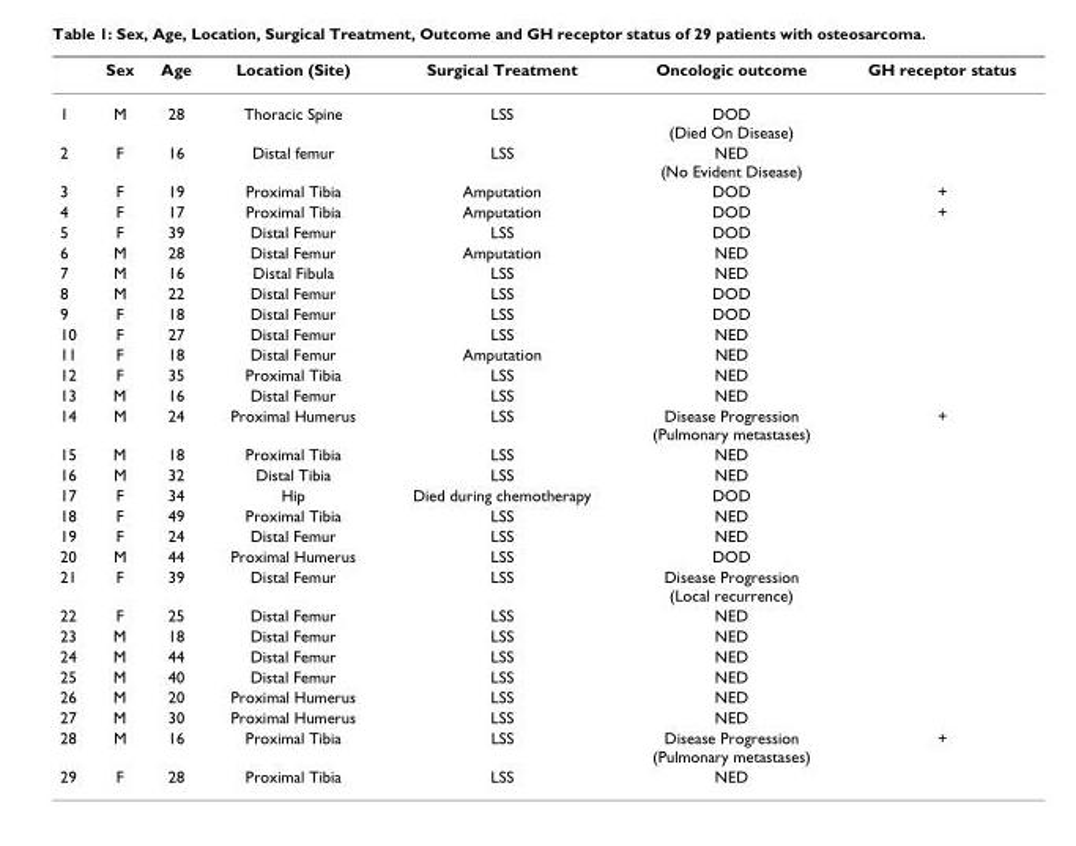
<table><thead><tr><td></td><td>Sex</td><td>Age</td><td>Location (Site)</td><td>Surgical Treatment</td><td>Oncologic outcome</td><td>GH receptor status</td></tr></thead><tbody><tr><td>1</td><td>M</td><td>28</td><td>Thoracic Spine</td><td>LSS</td><td>DOD (Died On Disease)</td><td></td></tr><tr><td>2</td><td>F</td><td>16</td><td>Distal femur</td><td>LSS</td><td>NED (No Evident Disease)</td><td></td></tr><tr><td>3</td><td>F</td><td>19</td><td>Proximal Tibia</td><td>Amputation</td><td>DOD</td><td>+</td></tr><tr><td>4</td><td>F</td><td>17</td><td>Proximal Tibia</td><td>Amputation</td><td>DOD</td><td>+</td></tr><tr><td>5</td><td>F</td><td>39</td><td>Distal Femur</td><td>LSS</td><td>DOD</td><td></td></tr><tr><td>6</td><td>M</td><td>28</td><td>Distal Femur</td><td>Amputation</td><td>NED</td><td></td></tr><tr><td>7</td><td>M</td><td>16</td><td>Distal Fibula</td><td>LSS</td><td>NED</td><td></td></tr><tr><td>8</td><td>M</td><td>22</td><td>Distal Femur</td><td>LSS</td><td>DOD</td><td></td></tr><tr><td>9</td><td>F</td><td>18</td><td>Distal Femur</td><td>LSS</td><td>DOD</td><td></td></tr><tr><td>10</td><td>F</td><td>27</td><td>Distal Femur</td><td>LSS</td><td>NED</td><td></td></tr><tr><td>11</td><td>F</td><td>18</td><td>Distal Femur</td><td>Amputation</td><td>NED</td><td></td></tr><tr><td>12</td><td>F</td><td>35</td><td>Proximal Tibia</td><td>LSS</td><td>NED</td><td></td></tr><tr><td>13</td><td>M</td><td>16</td><td>Distal Femur</td><td>LSS</td><td>NED</td><td></td></tr><tr><td>14</td><td>M</td><td>24</td><td>Proximal Humerus</td><td>LSS</td><td>Disease Progression (Pulmonary metastases)</td><td>+</td></tr><tr><td>15</td><td>M</td><td>18</td><td>Proximal Tibia</td><td>LSS</td><td>NED</td><td></td></tr><tr><td>16</td><td>M</td><td>32</td><td>Distal Tibia</td><td>LSS</td><td>NED</td><td></td></tr><tr><td>17</td><td>F</td><td>34</td><td>Hip</td><td>Died during chemotherapy</td><td>DOD</td><td></td></tr><tr><td>18</td><td>F</td><td>49</td><td>Proximal Tibia</td><td>LSS</td><td>NED</td><td></td></tr><tr><td>19</td><td>F</td><td>24</td><td>Distal Femur</td><td>LSS</td><td>NED</td><td></td></tr><tr><td>20</td><td>M</td><td>44</td><td>Proximal Humerus</td><td>LSS</td><td>DOD</td><td></td></tr><tr><td>21</td><td>F</td><td>39</td><td>Distal Femur</td><td>LSS</td><td>Disease Progression (Local recurrence)</td><td></td></tr><tr><td>22</td><td>F</td><td>25</td><td>Distal Femur</td><td>LSS</td><td>NED</td><td></td></tr><tr><td>23</td><td>M</td><td>18</td><td>Distal Femur</td><td>LSS</td><td>NED</td><td></td></tr><tr><td>24</td><td>M</td><td>44</td><td>Distal Femur</td><td>LSS</td><td>NED</td><td></td></tr><tr><td>25</td><td>M</td><td>40</td><td>Distal Femur</td><td>LSS</td><td>NED</td><td></td></tr><tr><td>26</td><td>M</td><td>20</td><td>Proximal Humerus</td><td>LSS</td><td>NED</td><td></td></tr><tr><td>27</td><td>M</td><td>30</td><td>Proximal Humerus</td><td>LSS</td><td>NED</td><td></td></tr><tr><td>28</td><td>M</td><td>16</td><td>Proximal Tibia</td><td>LSS</td><td>Disease Progression (Pulmonary metastases)</td><td>+</td></tr><tr><td>29</td><td>F</td><td>28</td><td>Proximal Tibia</td><td>LSS</td><td>NED</td><td></td></tr></tbody></table>